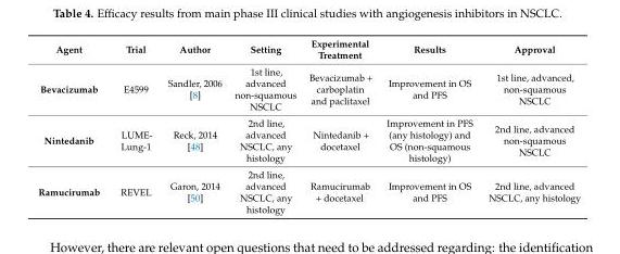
<table><thead><tr><td>Agent</td><td>Trial</td><td>Author</td><td>Setting</td><td>Experimental Treatment</td><td>Results</td><td>Approval</td></tr></thead><tbody><tr><td>Bevacizumab</td><td>E4599</td><td>Sandler, 2006 [8]</td><td>1st line, advanced non-squamous NSCLC</td><td>Bevacizumab + carboplatin and paclitaxel</td><td>Improvement in OS and PFS</td><td>1st line, advanced, non-squamous NSCLC</td></tr><tr><td>Nintedanib</td><td>LUME- Lung-1</td><td>Reck, 2014 [48]</td><td>2nd line, advanced NSCLC, any histology</td><td>Nintedanib + docetaxel</td><td>Improvement in PFS (any histology) and OS (non-squamous histology)</td><td>2nd line, advanced non-squamous NSCLC</td></tr><tr><td>Ramucirumab</td><td>REVEL</td><td>Garon, 2014 [50]</td><td>2nd line, advanced NSCLC, any histology</td><td>Ramucirumab + docetaxel</td><td>Improvement in OS and PFS</td><td>2nd line, advanced NSCLC, any histology</td></tr></tbody></table>